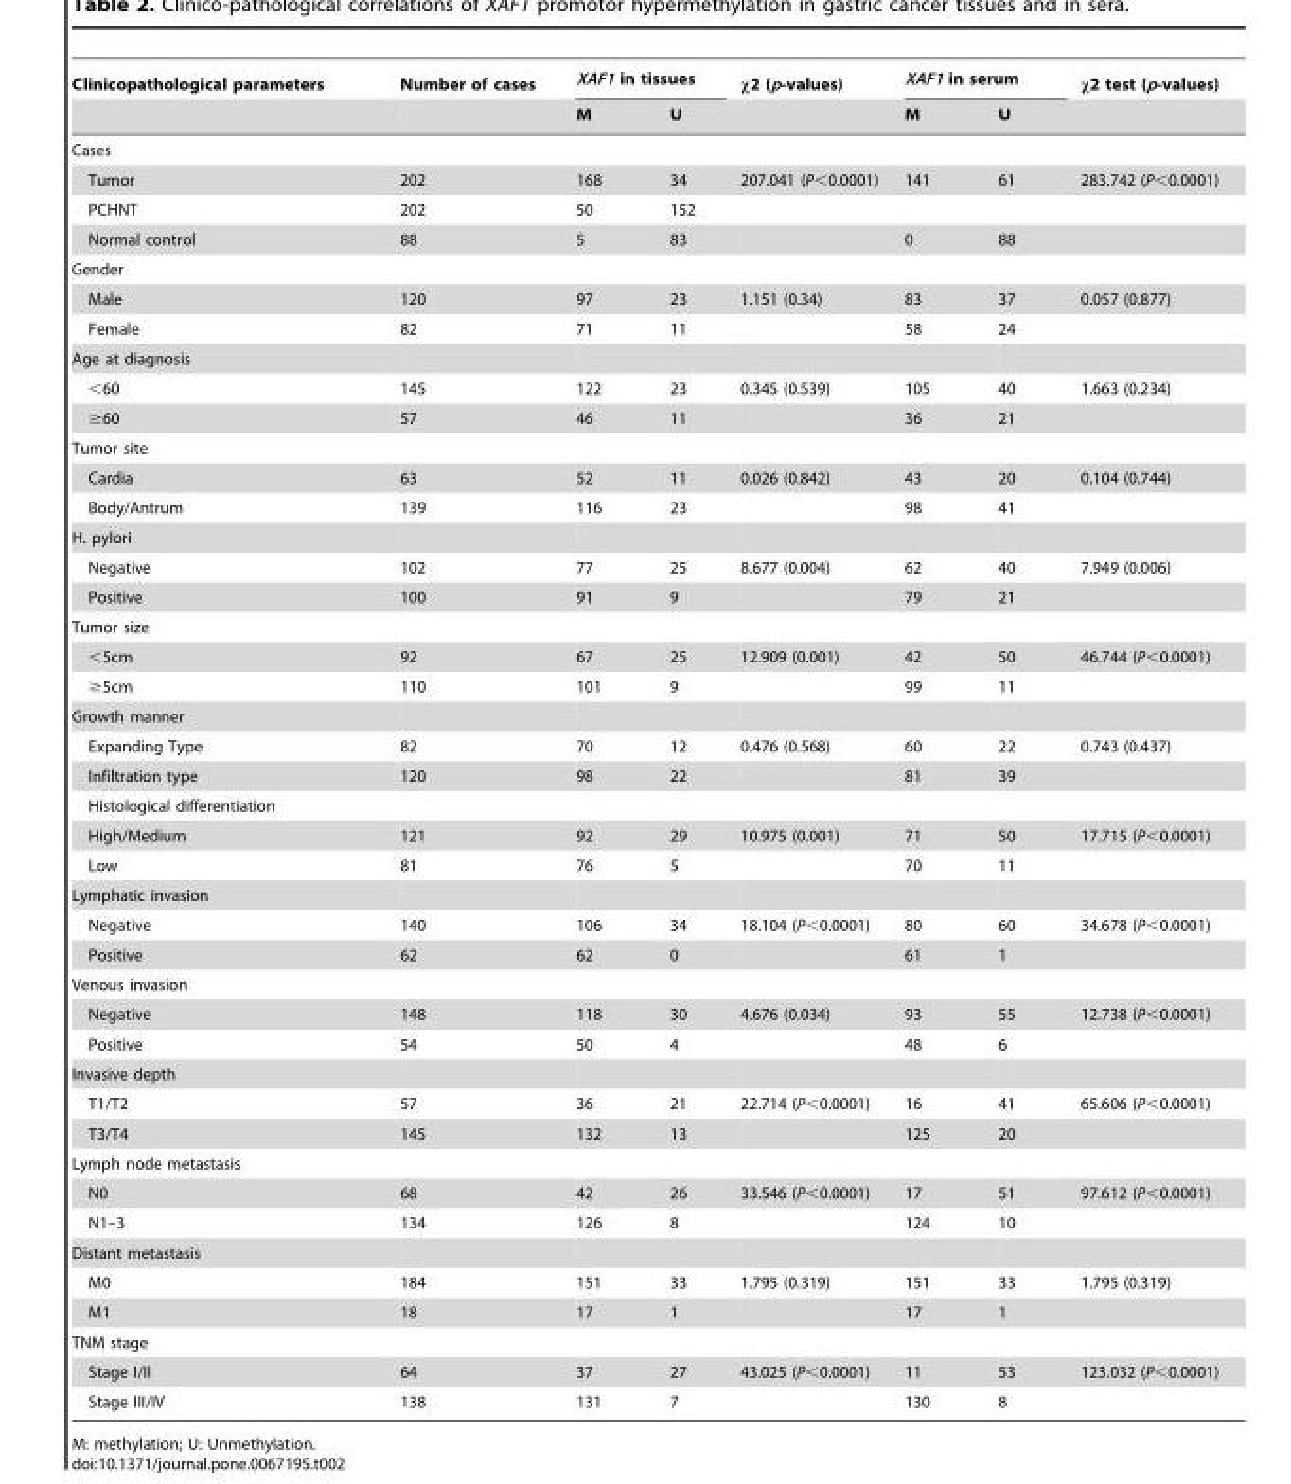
<table><thead><tr><td rowspan="2">Clinicopathological parameters</td><td rowspan="2">Number of cases</td><td colspan="2">XAF1 in tissues</td><td rowspan="2">x2 (p-values)</td><td colspan="2">XAF1 in serum</td><td rowspan="2">x2 test (p-values)</td></tr><tr><td>M</td><td>U</td><td>M</td><td>U</td></tr></thead><tbody><tr><td colspan="8">Cases</td></tr><tr><td>Tumor</td><td>202</td><td>168</td><td>34</td><td>207.041 (P&lt;0.0001)</td><td>141</td><td>61</td><td>283.742 (P&lt;0.0001)</td></tr><tr><td>PCHNT</td><td>202</td><td>50</td><td>152</td><td></td><td></td><td></td><td></td></tr><tr><td>Normal control</td><td>88</td><td>5</td><td>83</td><td></td><td>0</td><td>88</td><td></td></tr><tr><td colspan="8">Gender</td></tr><tr><td>Male</td><td>120</td><td>97</td><td>23</td><td>1.151 (0.34)</td><td>83</td><td>37</td><td>0.057 (0.877)</td></tr><tr><td>Female</td><td>82</td><td>71</td><td>11</td><td></td><td>58</td><td>24</td><td></td></tr><tr><td colspan="8">Age at diagnosis</td></tr><tr><td>&lt;60</td><td>145</td><td>122</td><td>23</td><td>0.345 (0.539)</td><td>105</td><td>40</td><td>1.663 (0.234)</td></tr><tr><td>≥60</td><td>57</td><td>46</td><td>11</td><td></td><td>36</td><td>21</td><td></td></tr><tr><td colspan="8">Tumor site</td></tr><tr><td>Cardia</td><td>63</td><td>52</td><td>11</td><td>0.026 (0.842)</td><td>43</td><td>20</td><td>0.104 (0.744)</td></tr><tr><td>Body/Antrum</td><td>139</td><td>116</td><td>23</td><td></td><td>98</td><td>41</td><td></td></tr><tr><td colspan="8">H. pylori</td></tr><tr><td>Negative</td><td>102</td><td>77</td><td>25</td><td>8.677 (0.004)</td><td>62</td><td>40</td><td>7.949 (0.006)</td></tr><tr><td>Positive</td><td>100</td><td>91</td><td>9</td><td></td><td>79</td><td>21</td><td></td></tr><tr><td colspan="8">Tumor size</td></tr><tr><td>&lt;5cm</td><td>92</td><td>67</td><td>25</td><td>12.909 (0.001)</td><td>42</td><td>50</td><td>46.744 (P&lt;0.0001)</td></tr><tr><td>≥5cm</td><td>110</td><td>101</td><td>9</td><td></td><td>99</td><td>11</td><td></td></tr><tr><td colspan="8">Growth manner</td></tr><tr><td>Expanding Type</td><td>82</td><td>70</td><td>12</td><td>0.476 (0.568)</td><td>60</td><td>22</td><td>0.743 (0.437)</td></tr><tr><td>Infiltration type</td><td>120</td><td>98</td><td>22</td><td></td><td>81</td><td>39</td><td></td></tr><tr><td colspan="8">Histological differentiation</td></tr><tr><td>High/Medium</td><td>121</td><td>92</td><td>29</td><td>10.975 (0.001)</td><td>71</td><td>50</td><td>17.715 (P&lt;0.0001)</td></tr><tr><td>Low</td><td>81</td><td>76</td><td>5</td><td></td><td>70</td><td>11</td><td></td></tr><tr><td colspan="8">Lymphatic invasion</td></tr><tr><td>Negative</td><td>140</td><td>106</td><td>34</td><td>18.104 (P&lt;0.0001)</td><td>80</td><td>60</td><td>34.678 (P&lt;0.0001)</td></tr><tr><td>Positive</td><td>62</td><td>62</td><td>0</td><td></td><td>61</td><td>1</td><td></td></tr><tr><td colspan="8">Venous invasion</td></tr><tr><td>Negative</td><td>148</td><td>118</td><td>30</td><td>4.676 (0.034)</td><td>93</td><td>55</td><td>12.738 (P&lt;0.0001)</td></tr><tr><td>Positive</td><td>54</td><td>50</td><td>4</td><td></td><td>48</td><td>6</td><td></td></tr><tr><td colspan="8">Invasive depth</td></tr><tr><td>T1/T2</td><td>57</td><td>36</td><td>21</td><td>22.714 (P&lt;0.0001)</td><td>16</td><td>41</td><td>65.606 (P&lt;0.0001)</td></tr><tr><td>T3/T4</td><td>145</td><td>132</td><td>13</td><td></td><td>125</td><td>20</td><td></td></tr><tr><td colspan="8">Lymph node metastasis</td></tr><tr><td>N0</td><td>68</td><td>42</td><td>26</td><td>33.546 (P&lt;0.0001)</td><td>17</td><td>51</td><td>97.612 (P&lt;0.0001)</td></tr><tr><td>N1–3</td><td>134</td><td>126</td><td>8</td><td></td><td>124</td><td>10</td><td></td></tr><tr><td colspan="8">Distant metastasis</td></tr><tr><td>M0</td><td>184</td><td>151</td><td>33</td><td>1.795 (0.319)</td><td>151</td><td>33</td><td>1.795 (0.319)</td></tr><tr><td>M1</td><td>18</td><td>17</td><td>1</td><td></td><td>17</td><td>1</td><td></td></tr><tr><td colspan="8">TNM stage</td></tr><tr><td>Stage I/II</td><td>64</td><td>37</td><td>27</td><td>43.025 (P&lt;0.0001)</td><td>11</td><td>53</td><td>123.032 (P&lt;0.0001)</td></tr><tr><td>Stage III/IV</td><td>138</td><td>131</td><td>7</td><td></td><td>130</td><td>8</td><td></td></tr></tbody></table>